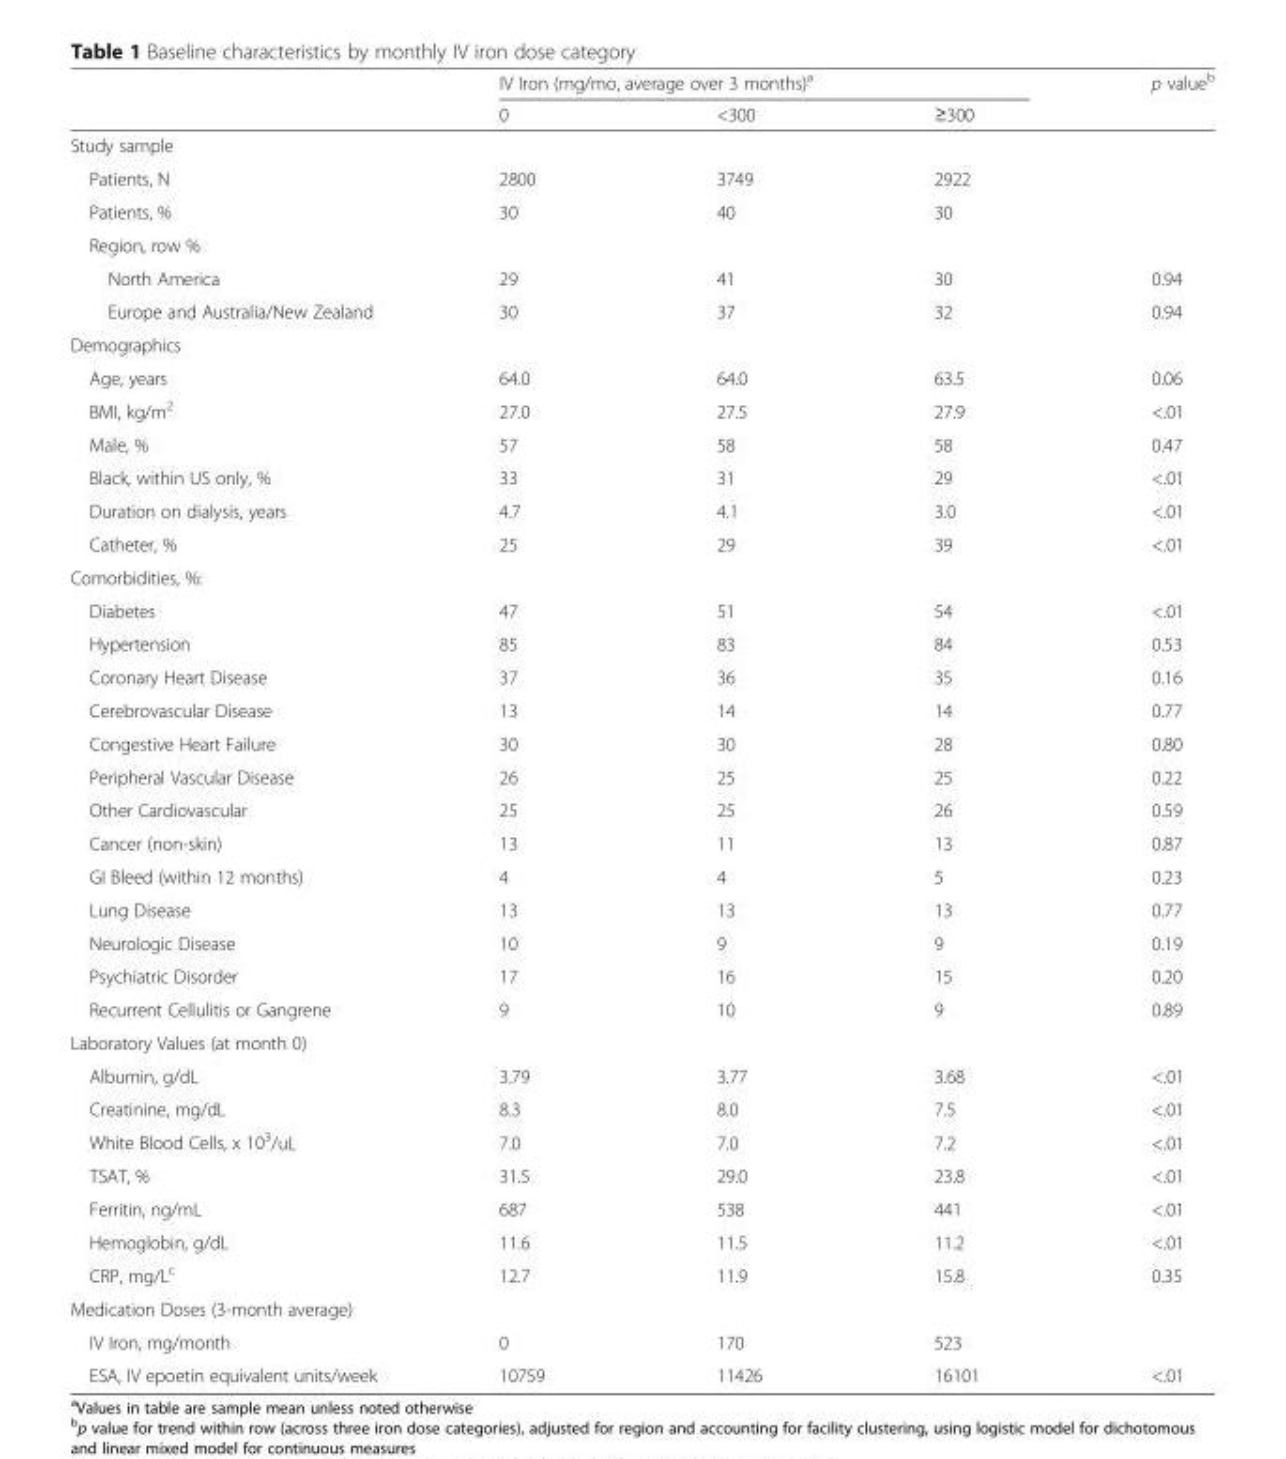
<table><thead><tr><td rowspan="2"></td><td colspan="3">IV Iron (mg/mo, average over 3 months)<sup>a</sup></td><td rowspan="2">p value<sup>b</sup></td></tr><tr><td>0</td><td>&lt;300</td><td>≥300</td></tr></thead><tbody><tr><td colspan="5">Study sample</td></tr><tr><td>Patients, N</td><td>2800</td><td>3749</td><td>2922</td><td></td></tr><tr><td>Patients, %</td><td>30</td><td>40</td><td>30</td><td></td></tr><tr><td colspan="5">Region, row %</td></tr><tr><td>North America</td><td>29</td><td>41</td><td>30</td><td>0.94</td></tr><tr><td>Europe and Australia/New Zealand</td><td>30</td><td>37</td><td>32</td><td>0.94</td></tr><tr><td colspan="5">Demographics</td></tr><tr><td>Age, years</td><td>64.0</td><td>64.0</td><td>63.5</td><td>0.06</td></tr><tr><td>BMI, kg/m<sup>2</sup></td><td>27.0</td><td>27.5</td><td>27.9</td><td>&lt;.01</td></tr><tr><td>Male, %</td><td>57</td><td>58</td><td>58</td><td>0.47</td></tr><tr><td>Black, within US only, %</td><td>33</td><td>31</td><td>29</td><td>&lt;.01</td></tr><tr><td>Duration on dialysis, years</td><td>4.7</td><td>4.1</td><td>3.0</td><td>&lt;.01</td></tr><tr><td>Catheter, %</td><td>25</td><td>29</td><td>39</td><td>&lt;.01</td></tr><tr><td colspan="5">Comorbidities, %:</td></tr><tr><td>Diabetes</td><td>47</td><td>51</td><td>54</td><td>&lt;.01</td></tr><tr><td>Hypertension</td><td>85</td><td>83</td><td>84</td><td>0.53</td></tr><tr><td>Coronary Heart Disease</td><td>37</td><td>36</td><td>35</td><td>0.16</td></tr><tr><td>Cerebrovascular Disease</td><td>13</td><td>14</td><td>14</td><td>0.77</td></tr><tr><td>Congestive Heart Failure</td><td>30</td><td>30</td><td>28</td><td>0.80</td></tr><tr><td>Peripheral Vascular Disease</td><td>26</td><td>25</td><td>25</td><td>0.22</td></tr><tr><td>Other Cardiovascular</td><td>25</td><td>25</td><td>26</td><td>0.59</td></tr><tr><td>Cancer (non-skin)</td><td>13</td><td>11</td><td>13</td><td>0.87</td></tr><tr><td>GI Bleed (within 12 months)</td><td>4</td><td>4</td><td>5</td><td>0.23</td></tr><tr><td>Lung Disease</td><td>13</td><td>13</td><td>13</td><td>0.77</td></tr><tr><td>Neurologic Disease</td><td>10</td><td>9</td><td>9</td><td>0.19</td></tr><tr><td>Psychiatric Disorder</td><td>17</td><td>16</td><td>15</td><td>0.20</td></tr><tr><td>Recurrent Cellulitis or Gangrene</td><td>9</td><td>10</td><td>9</td><td>0.89</td></tr><tr><td colspan="5">Laboratory Values (at month 0)</td></tr><tr><td>Albumin, g/dL</td><td>3.79</td><td>3.77</td><td>3.68</td><td>&lt;.01</td></tr><tr><td>Creatinine, mg/dL</td><td>8.3</td><td>8.0</td><td>7.5</td><td>&lt;.01</td></tr><tr><td>White Blood Cells, x 10<sup>3</sup>/uL</td><td>7.0</td><td>7.0</td><td>7.2</td><td>&lt;.01</td></tr><tr><td>TSAT, %</td><td>31.5</td><td>29.0</td><td>23.8</td><td>&lt;.01</td></tr><tr><td>Ferritin, ng/mL</td><td>687</td><td>538</td><td>441</td><td>&lt;.01</td></tr><tr><td>Hemoglobin, g/dL</td><td>11.6</td><td>11.5</td><td>11.2</td><td>&lt;.01</td></tr><tr><td>CRP, mg/L<sup>c</sup></td><td>12.7</td><td>11.9</td><td>15.8</td><td>0.35</td></tr><tr><td colspan="5">Medication Doses (3-month average)</td></tr><tr><td>IV Iron, mg/month</td><td>0</td><td>170</td><td>523</td><td></td></tr><tr><td>ESA, IV epoetin equivalent units/week</td><td>10759</td><td>11426</td><td>16101</td><td>&lt;.01</td></tr></tbody></table>